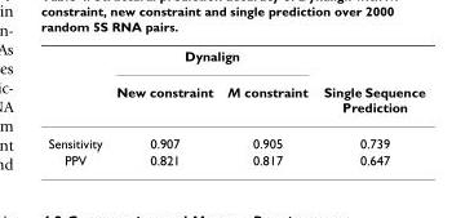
<table><thead><tr><td rowspan="2"></td><td colspan="2">Dynalign</td><td rowspan="2">Single Sequence Prediction</td></tr><tr><td>New constraint</td><td>M constraint</td></tr></thead><tbody><tr><td>Sensitivity</td><td>0.907</td><td>0.905</td><td>0.739</td></tr><tr><td>PPV</td><td>0.821</td><td>0.817</td><td>0.647</td></tr></tbody></table>